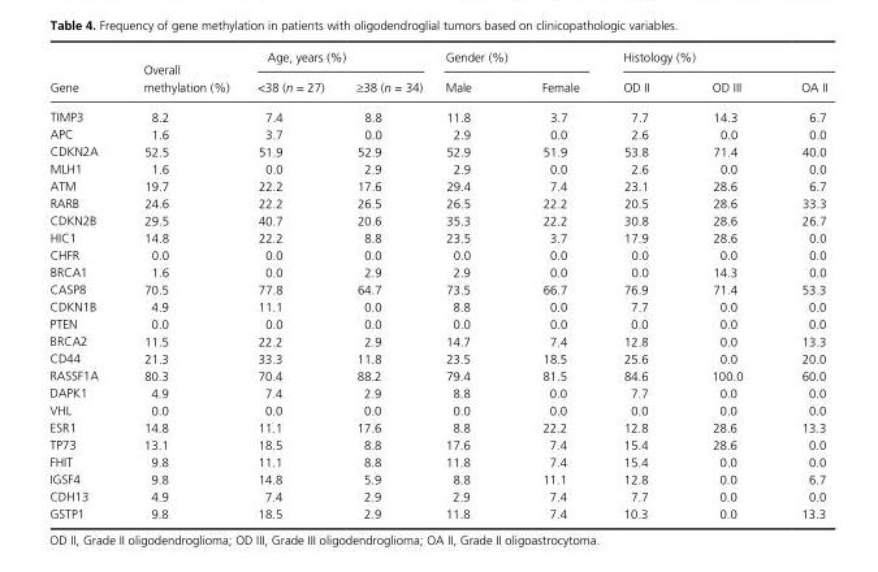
<table><thead><tr><td rowspan="2">Gene</td><td rowspan="2">Overall methylation (%)</td><td colspan="2">Age, years (%)</td><td colspan="2">Gender (%)</td><td colspan="3">Histology (%)</td></tr><tr><td>&lt;38 (n = 27)</td><td>≥38 (n = 34)</td><td>Male</td><td>Female</td><td>OD II</td><td>OD III</td><td>OA II</td></tr></thead><tbody><tr><td>TIMP3</td><td>8.2</td><td>7.4</td><td>8.8</td><td>11.8</td><td>3.7</td><td>7.7</td><td>14.3</td><td>6.7</td></tr><tr><td>APC</td><td>1.6</td><td>3.7</td><td>0.0</td><td>2.9</td><td>0.0</td><td>2.6</td><td>0.0</td><td>0.0</td></tr><tr><td>CDKN2A</td><td>52.5</td><td>51.9</td><td>52.9</td><td>52.9</td><td>51.9</td><td>53.8</td><td>71.4</td><td>40.0</td></tr><tr><td>MLH1</td><td>1.6</td><td>0.0</td><td>2.9</td><td>2.9</td><td>0.0</td><td>2.6</td><td>0.0</td><td>0.0</td></tr><tr><td>ATM</td><td>19.7</td><td>22.2</td><td>17.6</td><td>29.4</td><td>7.4</td><td>23.1</td><td>28.6</td><td>6.7</td></tr><tr><td>RARB</td><td>24.6</td><td>22.2</td><td>26.5</td><td>26.5</td><td>22.2</td><td>20.5</td><td>28.6</td><td>33.3</td></tr><tr><td>CDKN2B</td><td>29.5</td><td>40.7</td><td>20.6</td><td>35.3</td><td>22.2</td><td>30.8</td><td>28.6</td><td>26.7</td></tr><tr><td>HIC1</td><td>14.8</td><td>22.2</td><td>8.8</td><td>23.5</td><td>3.7</td><td>17.9</td><td>28.6</td><td>0.0</td></tr><tr><td>CHFR</td><td>0.0</td><td>0.0</td><td>0.0</td><td>0.0</td><td>0.0</td><td>0.0</td><td>0.0</td><td>0.0</td></tr><tr><td>BRCA1</td><td>1.6</td><td>0.0</td><td>2.9</td><td>2.9</td><td>0.0</td><td>0.0</td><td>14.3</td><td>0.0</td></tr><tr><td>CASP8</td><td>70.5</td><td>77.8</td><td>64.7</td><td>73.5</td><td>66.7</td><td>76.9</td><td>71.4</td><td>53.3</td></tr><tr><td>CDKN1B</td><td>4.9</td><td>11.1</td><td>0.0</td><td>8.8</td><td>0.0</td><td>7.7</td><td>0.0</td><td>0.0</td></tr><tr><td>PTEN</td><td>0.0</td><td>0.0</td><td>0.0</td><td>0.0</td><td>0.0</td><td>0.0</td><td>0.0</td><td>0.0</td></tr><tr><td>BRCA2</td><td>11.5</td><td>22.2</td><td>2.9</td><td>14.7</td><td>7.4</td><td>12.8</td><td>0.0</td><td>13.3</td></tr><tr><td>CD44</td><td>21.3</td><td>33.3</td><td>11.8</td><td>23.5</td><td>18.5</td><td>25.6</td><td>0.0</td><td>20.0</td></tr><tr><td>RASSF1A</td><td>80.3</td><td>70.4</td><td>88.2</td><td>79.4</td><td>81.5</td><td>84.6</td><td>100.0</td><td>60.0</td></tr><tr><td>DAPK1</td><td>4.9</td><td>7.4</td><td>2.9</td><td>8.8</td><td>0.0</td><td>7.7</td><td>0.0</td><td>0.0</td></tr><tr><td>VHL</td><td>0.0</td><td>0.0</td><td>0.0</td><td>0.0</td><td>0.0</td><td>0.0</td><td>0.0</td><td>0.0</td></tr><tr><td>ESR1</td><td>14.8</td><td>11.1</td><td>17.6</td><td>8.8</td><td>22.2</td><td>12.8</td><td>28.6</td><td>13.3</td></tr><tr><td>TP73</td><td>13.1</td><td>18.5</td><td>8.8</td><td>17.6</td><td>7.4</td><td>15.4</td><td>28.6</td><td>0.0</td></tr><tr><td>FHIT</td><td>9.8</td><td>11.1</td><td>8.8</td><td>11.8</td><td>7.4</td><td>15.4</td><td>0.0</td><td>0.0</td></tr><tr><td>IGSF4</td><td>9.8</td><td>14.8</td><td>5.9</td><td>8.8</td><td>11.1</td><td>12.8</td><td>0.0</td><td>6.7</td></tr><tr><td>CDH13</td><td>4.9</td><td>7.4</td><td>2.9</td><td>2.9</td><td>7.4</td><td>7.7</td><td>0.0</td><td>0.0</td></tr><tr><td>GSTP1</td><td>9.8</td><td>18.5</td><td>2.9</td><td>11.8</td><td>7.4</td><td>10.3</td><td>0.0</td><td>13.3</td></tr></tbody></table>